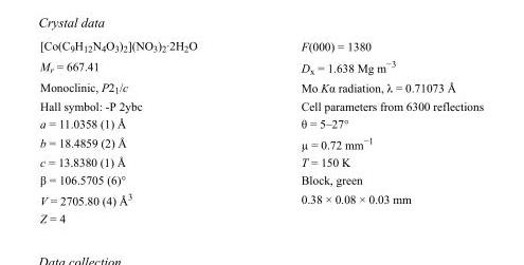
<table><tbody><tr><td>[Co(C<sub>9</sub>H<sub>12</sub>N<sub>4</sub>O<sub>3</sub>)<sub>2</sub>](NO<sub>3</sub>)<sub>2</sub>·2H<sub>2</sub>O</td><td>F(000) = 1380</td></tr><tr><td>M<sub>r</sub> = 667.41</td><td>D<sub>x</sub> = 1.638 Mg m<sup>−3</sup></td></tr><tr><td>Monoclinic, P2<sub>1</sub>/c</td><td>Mo Kα radiation, λ = 0.71073 Å</td></tr><tr><td>Hall symbol: -P 2ybc</td><td>Cell parameters from 6300 reflections</td></tr><tr><td>a = 11.0358 (1) Å</td><td>θ = 5–27°</td></tr><tr><td>b = 18.4859 (2) Å</td><td>µ = 0.72 mm<sup>−1</sup></td></tr><tr><td>c = 13.8380 (1) Å</td><td>T = 150 K</td></tr><tr><td>β = 106.5705 (6)°</td><td>Block, green</td></tr><tr><td>V = 2705.80 (4) Å<sup>3</sup></td><td>0.38 × 0.08 × 0.03 mm</td></tr><tr><td>Z = 4</td><td></td></tr></tbody></table>